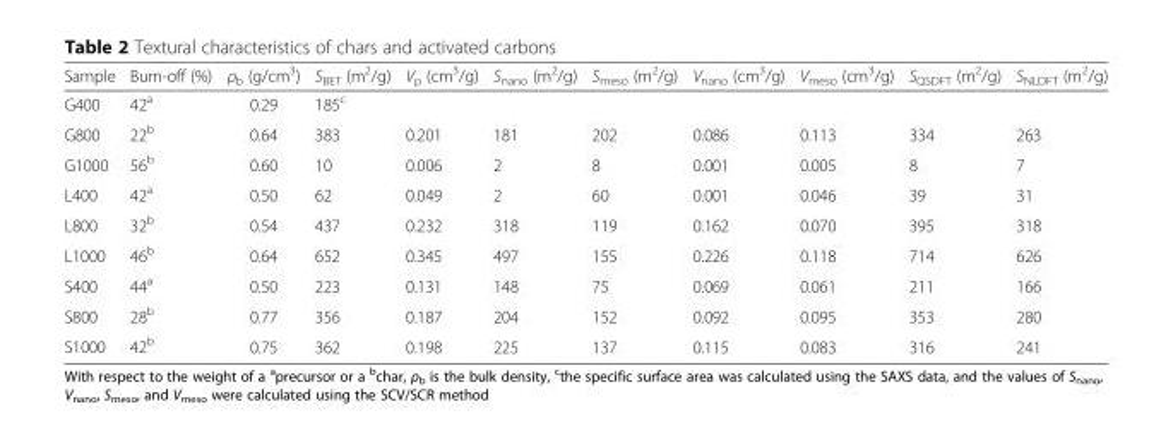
<table><thead><tr><td>Sample</td><td>Burn-off (%)</td><td>ρ<sub>b</sub> (g/cm<sup>3</sup>)</td><td>S<sub>BET</sub> (m<sup>2</sup>/g)</td><td>V<sub>p</sub> (cm<sup>3</sup>/g)</td><td>S<sub>nano</sub> (m<sup>2</sup>/g)</td><td>S<sub>meso</sub> (m<sup>2</sup>/g)</td><td>V<sub>nano</sub> (cm<sup>3</sup>/g)</td><td>V<sub>meso</sub> (cm<sup>3</sup>/g)</td><td>S<sub>QSDFT</sub> (m<sup>2</sup>/g)</td><td>S<sub>NLDFT</sub> (m<sup>2</sup>/g)</td></tr></thead><tbody><tr><td>G400</td><td>42<sup>a</sup></td><td>0.29</td><td>185<sup>c</sup></td><td></td><td></td><td></td><td></td><td></td><td></td><td></td></tr><tr><td>G800</td><td>22<sup>b</sup></td><td>0.64</td><td>383</td><td>0.201</td><td>181</td><td>202</td><td>0.086</td><td>0.113</td><td>334</td><td>263</td></tr><tr><td>G1000</td><td>56<sup>b</sup></td><td>0.60</td><td>10</td><td>0.006</td><td>2</td><td>8</td><td>0.001</td><td>0.005</td><td>8</td><td>7</td></tr><tr><td>L400</td><td>42<sup>a</sup></td><td>0.50</td><td>62</td><td>0.049</td><td>2</td><td>60</td><td>0.001</td><td>0.046</td><td>39</td><td>31</td></tr><tr><td>L800</td><td>32<sup>b</sup></td><td>0.54</td><td>437</td><td>0.232</td><td>318</td><td>119</td><td>0.162</td><td>0.070</td><td>395</td><td>318</td></tr><tr><td>L1000</td><td>46<sup>b</sup></td><td>0.64</td><td>652</td><td>0.345</td><td>497</td><td>155</td><td>0.226</td><td>0.118</td><td>714</td><td>626</td></tr><tr><td>S400</td><td>44<sup>a</sup></td><td>0.50</td><td>223</td><td>0.131</td><td>148</td><td>75</td><td>0.069</td><td>0.061</td><td>211</td><td>166</td></tr><tr><td>S800</td><td>28<sup>b</sup></td><td>0.77</td><td>356</td><td>0.187</td><td>204</td><td>152</td><td>0.092</td><td>0.095</td><td>353</td><td>280</td></tr><tr><td>S1000</td><td>42<sup>b</sup></td><td>0.75</td><td>362</td><td>0.198</td><td>225</td><td>137</td><td>0.115</td><td>0.083</td><td>316</td><td>241</td></tr></tbody></table>